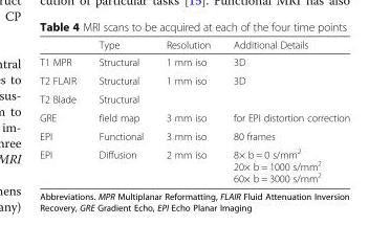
<table><thead><tr><td></td><td>Type</td><td>Resolution</td><td>Additional Details</td></tr></thead><tbody><tr><td>T1 MPR</td><td>Structural</td><td>1 mm iso</td><td>3D</td></tr><tr><td>T2 FLAIR</td><td>Structural</td><td>1 mm iso</td><td>3D</td></tr><tr><td>T2 Blade</td><td>Structural</td><td></td><td></td></tr><tr><td>GRE</td><td>field map</td><td>3 mm iso</td><td>for EPI distortion correction</td></tr><tr><td>EPI</td><td>Functional</td><td>3 mm iso</td><td>80 frames</td></tr><tr><td>EPI</td><td>Diffusion</td><td>2 mm iso</td><td>8× b = 0 s/mm<sup>2</sup> 20× b = 1000 s/mm<sup>2</sup> 60× b = 3000 s/mm<sup>2</sup></td></tr></tbody></table>